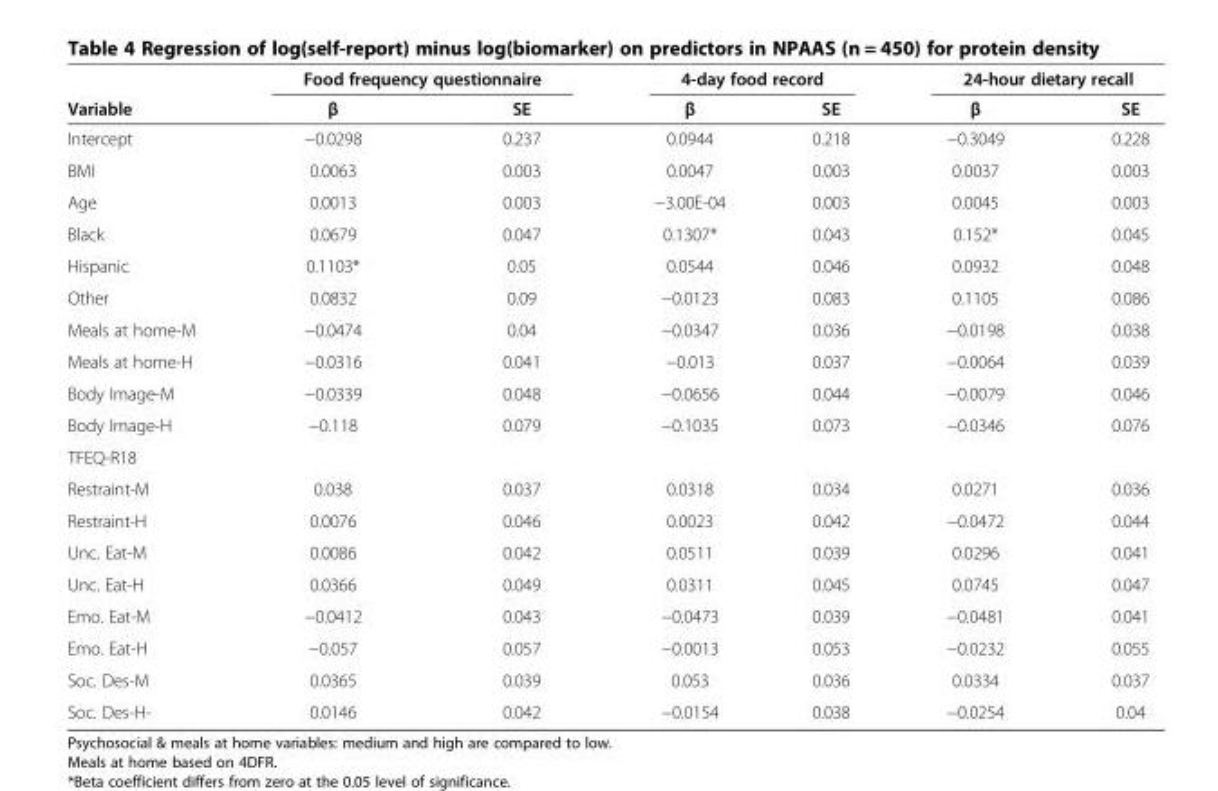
<table><thead><tr><td rowspan="2">Variable</td><td colspan="2">Food frequency questionnaire</td><td colspan="2">4-day food record</td><td colspan="2">24-hour dietary recall</td></tr><tr><td>β</td><td>SE</td><td>β</td><td>SE</td><td>β</td><td>SE</td></tr></thead><tbody><tr><td>Intercept</td><td>−0.0298</td><td>0.237</td><td>0.0944</td><td>0.218</td><td>−0.3049</td><td>0.228</td></tr><tr><td>BMI</td><td>0.0063</td><td>0.003</td><td>0.0047</td><td>0.003</td><td>0.0037</td><td>0.003</td></tr><tr><td>Age</td><td>0.0013</td><td>0.003</td><td>−3.00E-04</td><td>0.003</td><td>0.0045</td><td>0.003</td></tr><tr><td>Black</td><td>0.0679</td><td>0.047</td><td>0.1307*</td><td>0.043</td><td>0.152*</td><td>0.045</td></tr><tr><td>Hispanic</td><td>0.1103*</td><td>0.05</td><td>0.0544</td><td>0.046</td><td>0.0932</td><td>0.048</td></tr><tr><td>Other</td><td>0.0832</td><td>0.09</td><td>−0.0123</td><td>0.083</td><td>0.1105</td><td>0.086</td></tr><tr><td>Meals at home-M</td><td>−0.0474</td><td>0.04</td><td>−0.0347</td><td>0.036</td><td>−0.0198</td><td>0.038</td></tr><tr><td>Meals at home-H</td><td>−0.0316</td><td>0.041</td><td>−0.013</td><td>0.037</td><td>−0.0064</td><td>0.039</td></tr><tr><td>Body Image-M</td><td>−0.0339</td><td>0.048</td><td>−0.0656</td><td>0.044</td><td>−0.0079</td><td>0.046</td></tr><tr><td>Body Image-H</td><td>−0.118</td><td>0.079</td><td>−0.1035</td><td>0.073</td><td>−0.0346</td><td>0.076</td></tr><tr><td colspan="7">TFEQ-R18</td></tr><tr><td>Restraint-M</td><td>0.038</td><td>0.037</td><td>0.0318</td><td>0.034</td><td>0.0271</td><td>0.036</td></tr><tr><td>Restraint-H</td><td>0.0076</td><td>0.046</td><td>0.0023</td><td>0.042</td><td>−0.0472</td><td>0.044</td></tr><tr><td>Unc. Eat-M</td><td>0.0086</td><td>0.042</td><td>0.0511</td><td>0.039</td><td>0.0296</td><td>0.041</td></tr><tr><td>Unc. Eat-H</td><td>0.0366</td><td>0.049</td><td>0.0311</td><td>0.045</td><td>0.0745</td><td>0.047</td></tr><tr><td>Emo. Eat-M</td><td>−0.0412</td><td>0.043</td><td>−0.0473</td><td>0.039</td><td>−0.0481</td><td>0.041</td></tr><tr><td>Emo. Eat-H</td><td>−0.057</td><td>0.057</td><td>−0.0013</td><td>0.053</td><td>−0.0232</td><td>0.055</td></tr><tr><td>Soc. Des-M</td><td>0.0365</td><td>0.039</td><td>0.053</td><td>0.036</td><td>0.0334</td><td>0.037</td></tr><tr><td>Soc. Des-H-</td><td>0.0146</td><td>0.042</td><td>−0.0154</td><td>0.038</td><td>−0.0254</td><td>0.04</td></tr></tbody></table>